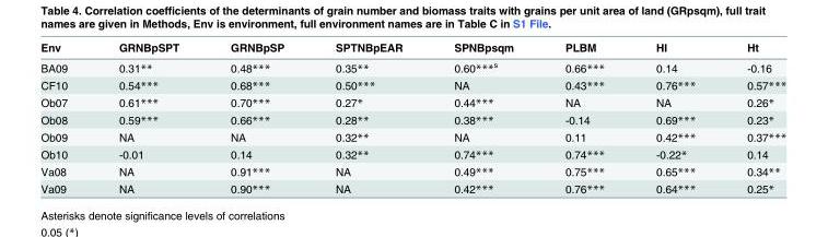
<table><thead><tr><td>Env</td><td>GRNBpSPT</td><td>GRNBpSP</td><td>SPTNBpEAR</td><td>SPNBpsqm</td><td>PLBM</td><td>HI</td><td>Ht</td></tr></thead><tbody><tr><td>BA09</td><td>0.31**</td><td>0.48***</td><td>0.35**</td><td>0.60***<sup>s</sup></td><td>0.66***</td><td>0.14</td><td>-0.16</td></tr><tr><td>CF10</td><td>0.54***</td><td>0.68***</td><td>0.50***</td><td>NA</td><td>0.43***</td><td>0.76***</td><td>0.57***</td></tr><tr><td>Ob07</td><td>0.61***</td><td>0.70***</td><td>0.27*</td><td>0.44***</td><td>NA</td><td>NA</td><td>0.26*</td></tr><tr><td>Ob08</td><td>0.59***</td><td>0.66***</td><td>0.28**</td><td>0.38***</td><td>-0.14</td><td>0.69***</td><td>0.23*</td></tr><tr><td>Ob09</td><td>NA</td><td>NA</td><td>0.32**</td><td>NA</td><td>0.11</td><td>0.42***</td><td>0.37***</td></tr><tr><td>Ob10</td><td>-0.01</td><td>0.14</td><td>0.32**</td><td>0.74***</td><td>0.74***</td><td>-0.22*</td><td>0.14</td></tr><tr><td>Va08</td><td>NA</td><td>0.91***</td><td>NA</td><td>0.49***</td><td>0.75***</td><td>0.65***</td><td>0.34**</td></tr><tr><td>Va09</td><td>NA</td><td>0.90***</td><td>NA</td><td>0.42***</td><td>0.76***</td><td>0.64***</td><td>0.25*</td></tr></tbody></table>